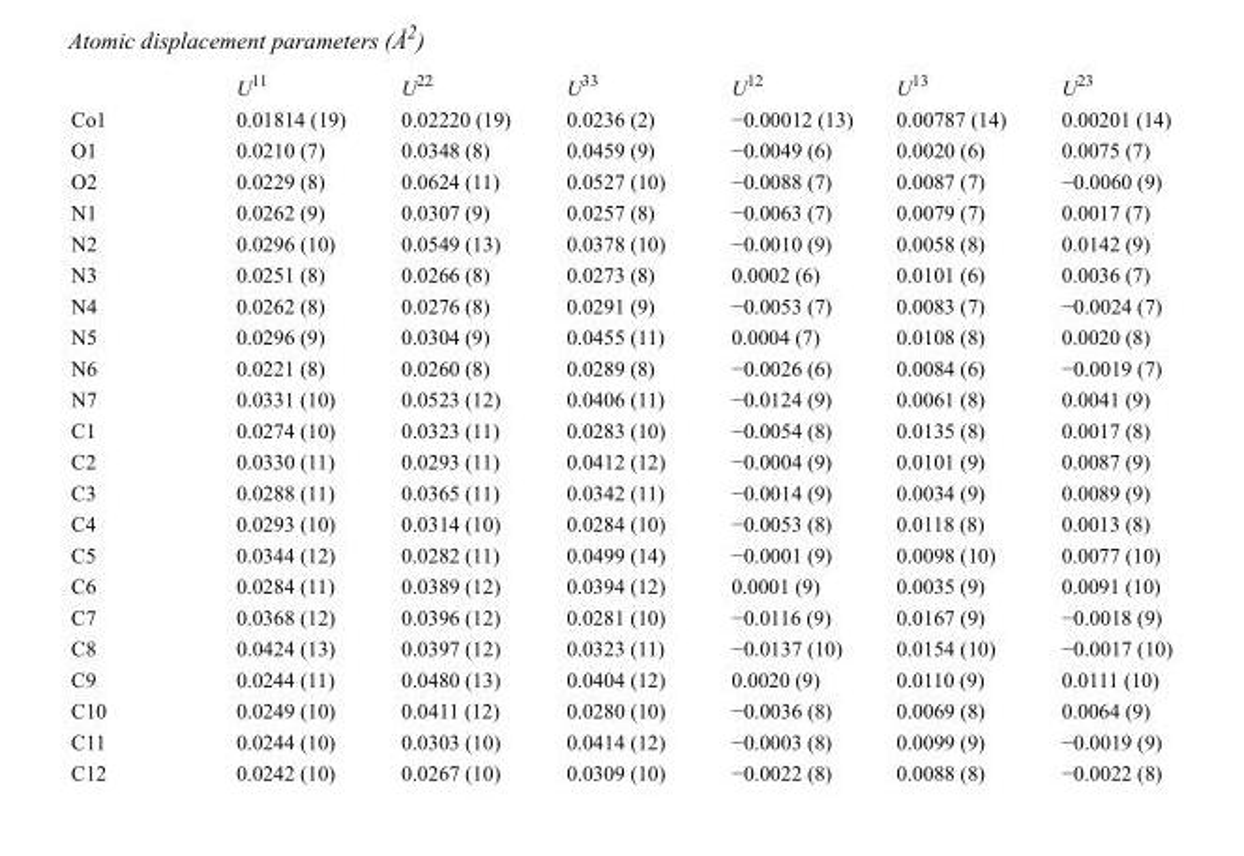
<table><thead><tr><td></td><td>U<sup>11</sup></td><td>U<sup>22</sup></td><td>U<sup>33</sup></td><td>U<sup>12</sup></td><td>U<sup>13</sup></td><td>U<sup>23</sup></td></tr></thead><tbody><tr><td>Co1</td><td>0.01814 (19)</td><td>0.02220 (19)</td><td>0.0236 (2)</td><td>−0.00012 (13)</td><td>0.00787 (14)</td><td>0.00201 (14)</td></tr><tr><td>O1</td><td>0.0210 (7)</td><td>0.0348 (8)</td><td>0.0459 (9)</td><td>−0.0049 (6)</td><td>0.0020 (6)</td><td>0.0075 (7)</td></tr><tr><td>O2</td><td>0.0229 (8)</td><td>0.0624 (11)</td><td>0.0527 (10)</td><td>−0.0088 (7)</td><td>0.0087 (7)</td><td>−0.0060 (9)</td></tr><tr><td>N1</td><td>0.0262 (9)</td><td>0.0307 (9)</td><td>0.0257 (8)</td><td>−0.0063 (7)</td><td>0.0079 (7)</td><td>0.0017 (7)</td></tr><tr><td>N2</td><td>0.0296 (10)</td><td>0.0549 (13)</td><td>0.0378 (10)</td><td>−0.0010 (9)</td><td>0.0058 (8)</td><td>0.0142 (9)</td></tr><tr><td>N3</td><td>0.0251 (8)</td><td>0.0266 (8)</td><td>0.0273 (8)</td><td>0.0002 (6)</td><td>0.0101 (6)</td><td>0.0036 (7)</td></tr><tr><td>N4</td><td>0.0262 (8)</td><td>0.0276 (8)</td><td>0.0291 (9)</td><td>−0.0053 (7)</td><td>0.0083 (7)</td><td>−0.0024 (7)</td></tr><tr><td>N5</td><td>0.0296 (9)</td><td>0.0304 (9)</td><td>0.0455 (11)</td><td>0.0004 (7)</td><td>0.0108 (8)</td><td>0.0020 (8)</td></tr><tr><td>N6</td><td>0.0221 (8)</td><td>0.0260 (8)</td><td>0.0289 (8)</td><td>−0.0026 (6)</td><td>0.0084 (6)</td><td>−0.0019 (7)</td></tr><tr><td>N7</td><td>0.0331 (10)</td><td>0.0523 (12)</td><td>0.0406 (11)</td><td>−0.0124 (9)</td><td>0.0061 (8)</td><td>0.0041 (9)</td></tr><tr><td>C1</td><td>0.0274 (10)</td><td>0.0323 (11)</td><td>0.0283 (10)</td><td>−0.0054 (8)</td><td>0.0135 (8)</td><td>0.0017 (8)</td></tr><tr><td>C2</td><td>0.0330 (11)</td><td>0.0293 (11)</td><td>0.0412 (12)</td><td>−0.0004 (9)</td><td>0.0101 (9)</td><td>0.0087 (9)</td></tr><tr><td>C3</td><td>0.0288 (11)</td><td>0.0365 (11)</td><td>0.0342 (11)</td><td>−0.0014 (9)</td><td>0.0034 (9)</td><td>0.0089 (9)</td></tr><tr><td>C4</td><td>0.0293 (10)</td><td>0.0314 (10)</td><td>0.0284 (10)</td><td>−0.0053 (8)</td><td>0.0118 (8)</td><td>0.0013 (8)</td></tr><tr><td>C5</td><td>0.0344 (12)</td><td>0.0282 (11)</td><td>0.0499 (14)</td><td>−0.0001 (9)</td><td>0.0098 (10)</td><td>0.0077 (10)</td></tr><tr><td>C6</td><td>0.0284 (11)</td><td>0.0389 (12)</td><td>0.0394 (12)</td><td>0.0001 (9)</td><td>0.0035 (9)</td><td>0.0091 (10)</td></tr><tr><td>C7</td><td>0.0368 (12)</td><td>0.0396 (12)</td><td>0.0281 (10)</td><td>−0.0116 (9)</td><td>0.0167 (9)</td><td>−0.0018 (9)</td></tr><tr><td>C8</td><td>0.0424 (13)</td><td>0.0397 (12)</td><td>0.0323 (11)</td><td>−0.0137 (10)</td><td>0.0154 (10)</td><td>−0.0017 (10)</td></tr><tr><td>C9</td><td>0.0244 (11)</td><td>0.0480 (13)</td><td>0.0404 (12)</td><td>0.0020 (9)</td><td>0.0110 (9)</td><td>0.0111 (10)</td></tr><tr><td>C10</td><td>0.0249 (10)</td><td>0.0411 (12)</td><td>0.0280 (10)</td><td>−0.0036 (8)</td><td>0.0069 (8)</td><td>0.0064 (9)</td></tr><tr><td>C11</td><td>0.0244 (10)</td><td>0.0303 (10)</td><td>0.0414 (12)</td><td>−0.0003 (8)</td><td>0.0099 (9)</td><td>−0.0019 (9)</td></tr><tr><td>C12</td><td>0.0242 (10)</td><td>0.0267 (10)</td><td>0.0309 (10)</td><td>−0.0022 (8)</td><td>0.0088 (8)</td><td>−0.0022 (8)</td></tr></tbody></table>